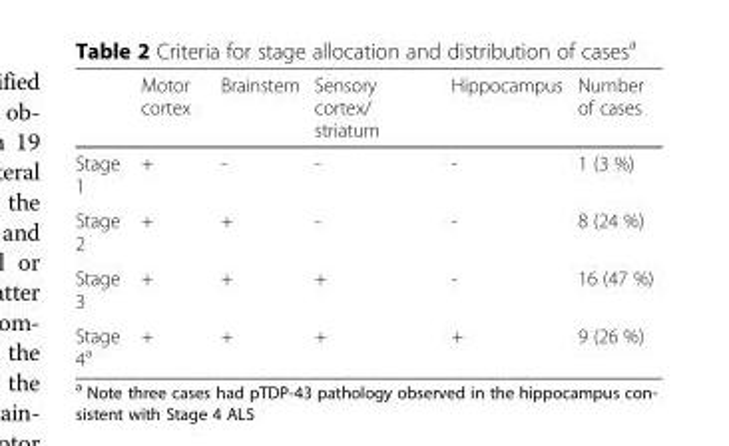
<table><thead><tr><td></td><td>Motor cortex</td><td>Brainstem</td><td>Sensory cortex/ striatum</td><td>Hippocampus</td><td>Number of cases</td></tr></thead><tbody><tr><td>Stage 1</td><td>+</td><td>-</td><td>-</td><td>-</td><td>1 (3 %)</td></tr><tr><td>Stage 2</td><td>+</td><td>+</td><td>-</td><td>-</td><td>8 (24 %)</td></tr><tr><td>Stage 3</td><td>+</td><td>+</td><td>+</td><td>-</td><td>16 (47 %)</td></tr><tr><td>Stage 4<sup>a</sup></td><td>+</td><td>+</td><td>+</td><td>+</td><td>9 (26 %)</td></tr></tbody></table>